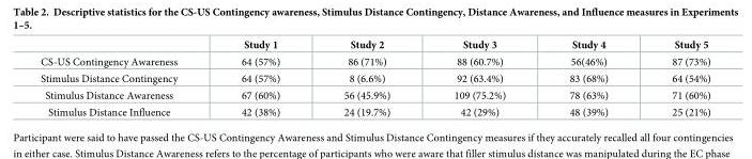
<table><thead><tr><td></td><td>Study 1</td><td>Study 2</td><td>Study 3</td><td>Study 4</td><td>Study 5</td></tr></thead><tbody><tr><td>CS-US Contingency Awareness</td><td>64 (57%)</td><td>86 (71%)</td><td>88 (60.7%)</td><td>56(46%)</td><td>87 (73%)</td></tr><tr><td>Stimulus Distance Contingency</td><td>64 (57%)</td><td>8 (6.6%)</td><td>92 (63.4%)</td><td>83 (68%)</td><td>64 (54%)</td></tr><tr><td>Stimulus Distance Awareness</td><td>67 (60%)</td><td>56 (45.9%)</td><td>109 (75.2%)</td><td>78 (63%)</td><td>71 (60%)</td></tr><tr><td>Stimulus Distance Influence</td><td>42 (38%)</td><td>24 (19.7%)</td><td>42 (29%)</td><td>48 (39%)</td><td>25 (21%)</td></tr></tbody></table>